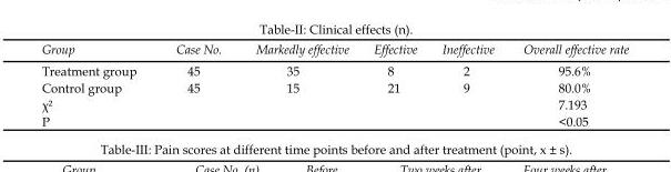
<table><thead><tr><td>Group</td><td>Case No.</td><td>Markedly effective</td><td>Effective</td><td>Ineffective</td><td>Overall effective rate</td></tr></thead><tbody><tr><td>Treatment group</td><td>45</td><td>35</td><td>8</td><td>2</td><td>95.6%</td></tr><tr><td>Control group</td><td>45</td><td>15</td><td>21</td><td>9</td><td>80.0%</td></tr><tr><td>χ²</td><td></td><td></td><td></td><td></td><td>7.193</td></tr><tr><td>P</td><td></td><td></td><td></td><td></td><td>&lt;0.05</td></tr></tbody></table>